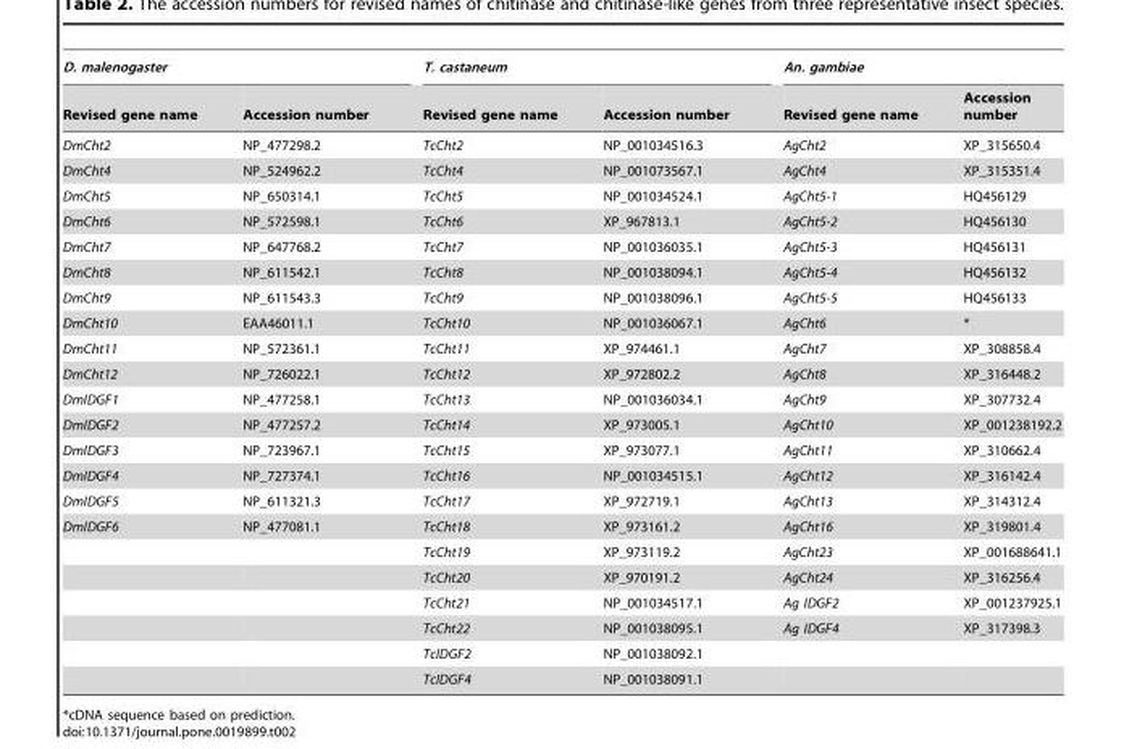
<table><thead><tr><td colspan="2">D. malenogaster</td><td colspan="2">T. castaneum</td><td colspan="2">An. gambiae</td></tr><tr><td>Revised gene name</td><td>Accession number</td><td>Revised gene name</td><td>Accession number</td><td>Revised gene name</td><td>Accession number</td></tr></thead><tbody><tr><td>DmCht2</td><td>NP_477298.2</td><td>TcCht2</td><td>NP_001034516.3</td><td>AgCht2</td><td>XP_315650.4</td></tr><tr><td>DmCht4</td><td>NP_524962.2</td><td>TcCht4</td><td>NP_001073567.1</td><td>AgCht4</td><td>XP_315351.4</td></tr><tr><td>DmCht5</td><td>NP_650314.1</td><td>TcCht5</td><td>NP_001034524.1</td><td>AgCht5-1</td><td>HQ456129</td></tr><tr><td>DmCht6</td><td>NP_572598.1</td><td>TcCht6</td><td>XP_967813.1</td><td>AgCht5-2</td><td>HQ456130</td></tr><tr><td>DmCht7</td><td>NP_647768.2</td><td>TcCht7</td><td>NP_001036035.1</td><td>AgCht5-3</td><td>HQ456131</td></tr><tr><td>DmCht8</td><td>NP_611542.1</td><td>TcCht8</td><td>NP_001038094.1</td><td>AgCht5-4</td><td>HQ456132</td></tr><tr><td>DmCht9</td><td>NP_611543.3</td><td>TcCht9</td><td>NP_001038096.1</td><td>AgCht5-5</td><td>HQ456133</td></tr><tr><td>DmCht10</td><td>EAA46011.1</td><td>TcCht10</td><td>NP_001036067.1</td><td>AgCht6</td><td>*</td></tr><tr><td>DmCht11</td><td>NP_572361.1</td><td>TcCht11</td><td>XP_974461.1</td><td>AgCht7</td><td>XP_308858.4</td></tr><tr><td>DmCht12</td><td>NP_726022.1</td><td>TcCht12</td><td>XP_972802.2</td><td>AgCht8</td><td>XP_316448.2</td></tr><tr><td>DmIDGF1</td><td>NP_477258.1</td><td>TcCht13</td><td>NP_001036034.1</td><td>AgCht9</td><td>XP_307732.4</td></tr><tr><td>DmIDGF2</td><td>NP_477257.2</td><td>TcCht14</td><td>XP_973005.1</td><td>AgCht10</td><td>XP_001238192.2</td></tr><tr><td>DmIDGF3</td><td>NP_723967.1</td><td>TcCht15</td><td>XP_973077.1</td><td>AgCht11</td><td>XP_310662.4</td></tr><tr><td>DmIDGF4</td><td>NP_727374.1</td><td>TcCht16</td><td>NP_001034515.1</td><td>AgCht12</td><td>XP_316142.4</td></tr><tr><td>DmIDGF5</td><td>NP_611321.3</td><td>TcCht17</td><td>XP_972719.1</td><td>AgCht13</td><td>XP_314312.4</td></tr><tr><td rowspan="7">DmIDGF6</td><td>NP_477081.1</td><td>TcCht18</td><td>XP_973161.2</td><td>AgCht16</td><td>XP_319801.4</td></tr><tr><td></td><td>TcCht19</td><td>XP_973119.2</td><td>AgCht23</td><td>XP_001688641.1</td></tr><tr><td></td><td>TcCht20</td><td>XP_970191.2</td><td>AgCht24</td><td>XP_316256.4</td></tr><tr><td></td><td>TcCht21</td><td>NP_001034517.1</td><td>Ag IDGF2</td><td>XP_001237925.1</td></tr><tr><td></td><td>TcCht22</td><td>NP_001038095.1</td><td>Ag IDGF4</td><td>XP_317398.3</td></tr><tr><td></td><td>TcIDGF2</td><td>NP_001038092.1</td><td></td><td></td></tr><tr><td></td><td>TcIDGF4</td><td>NP_001038091.1</td><td></td><td></td></tr></tbody></table>